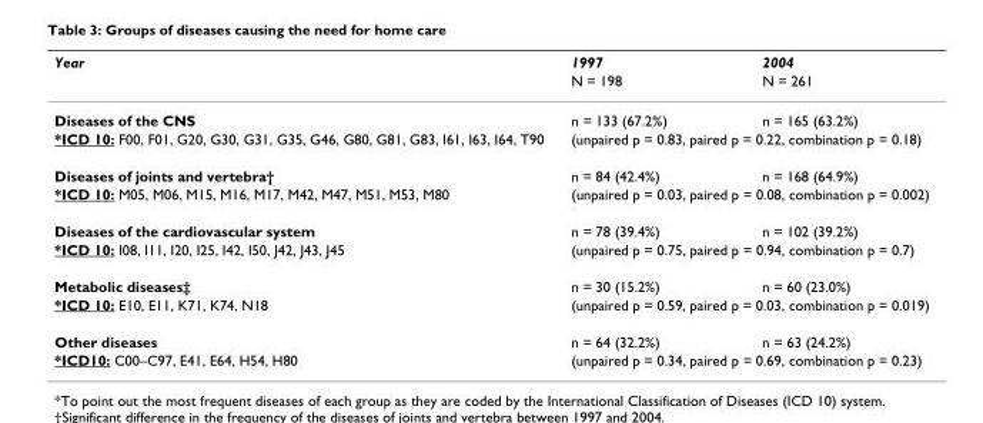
<table><thead><tr><td rowspan="2">Year</td><td rowspan="2">1997 N = 198</td><td rowspan="2">2004 N = 261</td></tr><tr></tr></thead><tbody><tr><td>Diseases of the CNS</td><td>n = 133 (67.2%)</td><td>n = 165 (63.2%)</td></tr><tr><td>*ICD 10: F00, F01, G20, G30, G31, G35, G46, G80, G81, G83, I61, I63, I64, T90</td><td colspan="2">(unpaired p = 0.83, paired p = 0.22, combination p = 0.18)</td></tr><tr><td>Diseases of joints and vertebra†</td><td>n = 84 (42.4%)</td><td>n = 168 (64.9%)</td></tr><tr><td>*ICD 10: M05, M06, M15, M16, M17, M42, M47, M51, M53, M80</td><td colspan="2">(unpaired p = 0.03, paired p = 0.08, combination p = 0.002)</td></tr><tr><td>Diseases of the cardiovascular system</td><td>n = 78 (39.4%)</td><td>n = 102 (39.2%)</td></tr><tr><td>*ICD 10: I08, I11, I20, I25, I42, I50, J42, J43, J45</td><td colspan="2">(unpaired p = 0.75, paired p = 0.94, combination p = 0.7)</td></tr><tr><td>Metabolic diseases‡</td><td>n = 30 (15.2%)</td><td>n = 60 (23.0%)</td></tr><tr><td>*ICD 10: E10, E11, K71, K74, N18</td><td colspan="2">(unpaired p = 0.59, paired p = 0.03, combination p = 0.019)</td></tr><tr><td>Other diseases</td><td>n = 64 (32.2%)</td><td>n = 63 (24.2%)</td></tr><tr><td>*ICD10: C00–C97, E41, E64, H54, H80</td><td colspan="2">(unpaired p = 0.34, paired p = 0.69, combination p = 0.23)</td></tr></tbody></table>